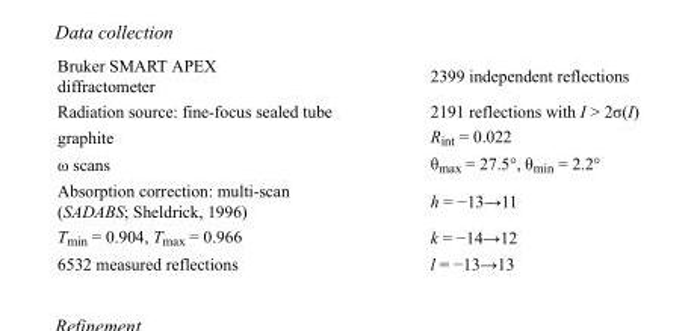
<table><tbody><tr><td>Bruker SMART APEX diffractometer</td><td>2399 independent reflections</td></tr><tr><td>Radiation source: fine-focus sealed tube</td><td>2191 reflections with I &gt; 2σ(I)</td></tr><tr><td>graphite</td><td>R<sub>int</sub> = 0.022</td></tr><tr><td>ω scans</td><td>θ<sub>max</sub> = 27.5°, θ<sub>min</sub> = 2.2°</td></tr><tr><td>Absorption correction: multi-scan (SADABS; Sheldrick, 1996)</td><td>h = −13→11</td></tr><tr><td>T<sub>min</sub> = 0.904, T<sub>max</sub> = 0.966</td><td>k = −14→12</td></tr><tr><td>6532 measured reflections</td><td>l = −13→13</td></tr></tbody></table>